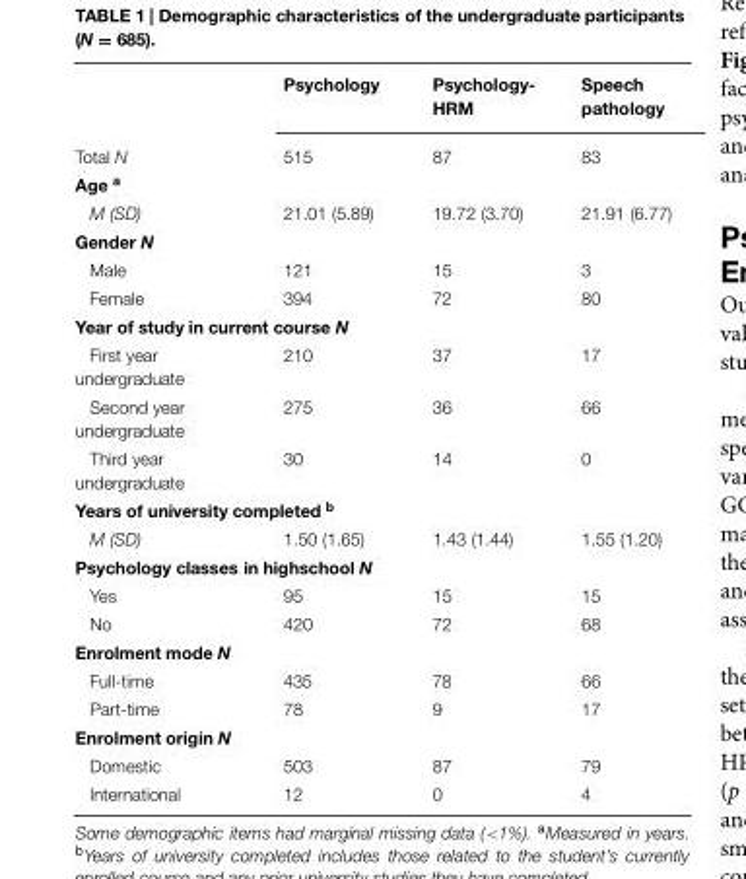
<table><thead><tr><td></td><td>Psychology</td><td>Psychology- HRM</td><td>Speech pathology</td></tr></thead><tbody><tr><td>Total N</td><td>515</td><td>87</td><td>83</td></tr><tr><td colspan="4">Age <sup>a</sup></td></tr><tr><td>M (SD)</td><td>21.01 (5.89)</td><td>19.72 (3.70)</td><td>21.91 (6.77)</td></tr><tr><td colspan="4">Gender N</td></tr><tr><td>Male</td><td>121</td><td>15</td><td>3</td></tr><tr><td>Female</td><td>394</td><td>72</td><td>80</td></tr><tr><td colspan="4">Year of study in current course N</td></tr><tr><td>First year undergraduate</td><td>210</td><td>37</td><td>17</td></tr><tr><td>Second year undergraduate</td><td>275</td><td>36</td><td>66</td></tr><tr><td>Third year undergraduate</td><td>30</td><td>14</td><td>0</td></tr><tr><td colspan="4">Years of university completed <sup>b</sup></td></tr><tr><td>M (SD)</td><td>1.50 (1.65)</td><td>1.43 (1.44)</td><td>1.55 (1.20)</td></tr><tr><td colspan="4">Psychology classes in highschool N</td></tr><tr><td>Yes</td><td>95</td><td>15</td><td>15</td></tr><tr><td>No</td><td>420</td><td>72</td><td>68</td></tr><tr><td colspan="4">Enrolment mode N</td></tr><tr><td>Full-time</td><td>435</td><td>78</td><td>66</td></tr><tr><td>Part-time</td><td>78</td><td>9</td><td>17</td></tr><tr><td colspan="4">Enrolment origin N</td></tr><tr><td>Domestic</td><td>503</td><td>87</td><td>79</td></tr><tr><td>International</td><td>12</td><td>0</td><td>4</td></tr></tbody></table>